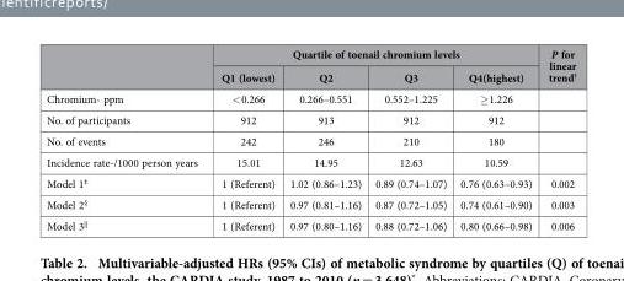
<table><thead><tr><td rowspan="2"></td><td colspan="4">Quartile of toenail chromium levels</td><td rowspan="2">P for linear trend†</td></tr><tr><td>Q1 (lowest)</td><td>Q2</td><td>Q3</td><td>Q4(highest)</td></tr></thead><tbody><tr><td>Chromium- ppm</td><td>&lt; 0.266</td><td>0.266–0.551</td><td>0.552–1.225</td><td>≥ 1.226</td><td></td></tr><tr><td>No. of participants</td><td>912</td><td>913</td><td>912</td><td>912</td><td></td></tr><tr><td>No. of events</td><td>242</td><td>246</td><td>210</td><td>180</td><td></td></tr><tr><td>Incidence rate-/1000 person years</td><td>15.01</td><td>14.95</td><td>12.63</td><td>10.59</td><td></td></tr><tr><td>Model 1‡</td><td>1 (Referent)</td><td>1.02 (0.86–1.23)</td><td>0.89 (0.74–1.07)</td><td>0.76 (0.63–0.93)</td><td>0.002</td></tr><tr><td>Model 2§</td><td>1 (Referent)</td><td>0.97 (0.81–1.16)</td><td>0.87 (0.72–1.05)</td><td>0.74 (0.61–0.90)</td><td>0.003</td></tr><tr><td>Model 3||</td><td>1 (Referent)</td><td>0.97 (0.80–1.16)</td><td>0.88 (0.72–1.06)</td><td>0.80 (0.66–0.98)</td><td>0.006</td></tr></tbody></table>